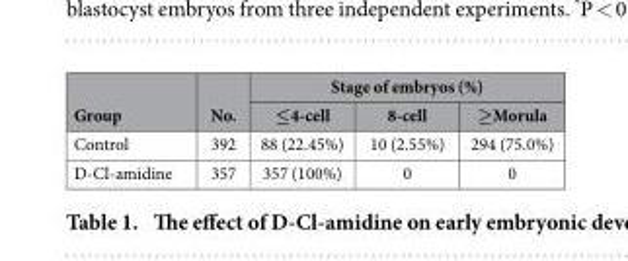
<table><thead><tr><td rowspan="2">Group</td><td rowspan="2">No.</td><td colspan="3">Stage of embryos (%)</td></tr><tr><td>≤4-cell</td><td>8-cell</td><td>≥Morula</td></tr></thead><tbody><tr><td>Control</td><td>392</td><td>88 (22.45%)</td><td>10 (2.55%)</td><td>294 (75.0%)</td></tr><tr><td>D-Cl-amidine</td><td>357</td><td>357 (100%)</td><td>0</td><td>0</td></tr></tbody></table>